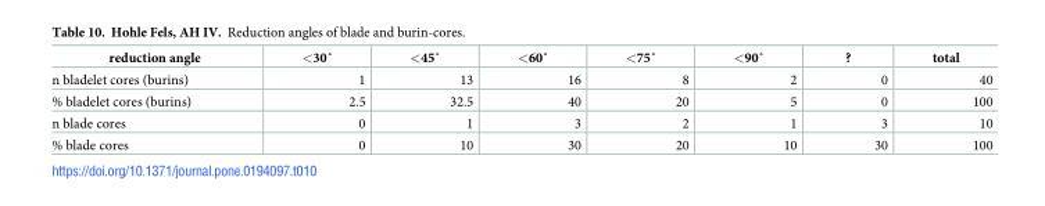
<table><thead><tr><td>reduction angle</td><td>&lt;30˚</td><td>&lt;45˚</td><td>&lt;60˚</td><td>&lt;75˚</td><td>&lt;90˚</td><td>?</td><td>total</td></tr></thead><tbody><tr><td>n bladelet cores (burins)</td><td>1</td><td>13</td><td>16</td><td>8</td><td>2</td><td>0</td><td>40</td></tr><tr><td>% bladelet cores (burins)</td><td>2.5</td><td>32.5</td><td>40</td><td>20</td><td>5</td><td>0</td><td>100</td></tr><tr><td>n blade cores</td><td>0</td><td>1</td><td>3</td><td>2</td><td>1</td><td>3</td><td>10</td></tr><tr><td>% blade cores</td><td>0</td><td>10</td><td>30</td><td>20</td><td>10</td><td>30</td><td>100</td></tr></tbody></table>